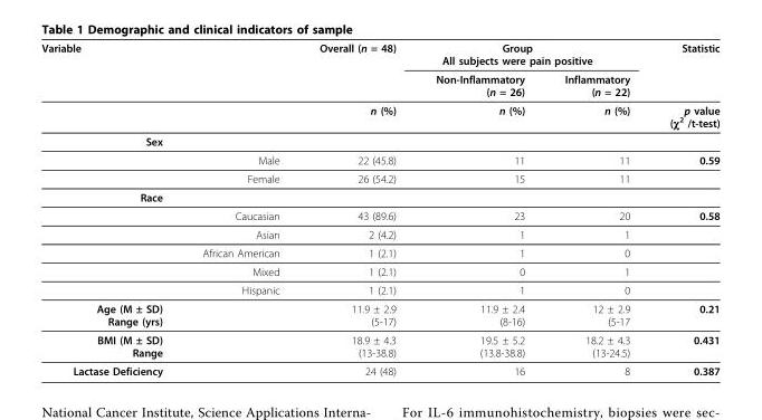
<table><thead><tr><td rowspan="2">Variable</td><td rowspan="2"></td><td rowspan="2">Overall (n = 48)</td><td colspan="2">Group All subjects were pain positive</td><td rowspan="2">Statistic</td></tr><tr><td>Non-Inflammatory (n = 26)</td><td>Inflammatory (n = 22)</td></tr></thead><tbody><tr><td></td><td></td><td>n (%)</td><td>n (%)</td><td>n (%)</td><td>p value (χ<sup>2</sup> /t-test)</td></tr><tr><td colspan="6">Sex</td></tr><tr><td></td><td>Male</td><td>22 (45.8)</td><td>11</td><td>11</td><td>0.59</td></tr><tr><td></td><td>Female</td><td>26 (54.2)</td><td>15</td><td>11</td><td></td></tr><tr><td colspan="6">Race</td></tr><tr><td></td><td>Caucasian</td><td>43 (89.6)</td><td>23</td><td>20</td><td>0.58</td></tr><tr><td></td><td>Asian</td><td>2 (4.2)</td><td>1</td><td>1</td><td></td></tr><tr><td></td><td>African American</td><td>1 (2.1)</td><td>1</td><td>0</td><td></td></tr><tr><td></td><td>Mixed</td><td>1 (2.1)</td><td>0</td><td>1</td><td></td></tr><tr><td></td><td>Hispanic</td><td>1 (2.1)</td><td>1</td><td>0</td><td></td></tr><tr><td>Age (M ± SD) Range (yrs)</td><td></td><td>11.9 ± 2.9 (5-17)</td><td>11.9 ± 2.4 (8-16)</td><td>12 ± 2.9 (5-17</td><td>0.21</td></tr><tr><td>BMI (M ± SD) Range</td><td></td><td>18.9 ± 4.3 (13-38.8)</td><td>19.5 ± 5.2 (13.8-38.8)</td><td>18.2 ± 4.3 (13-24.5)</td><td>0.431</td></tr><tr><td>Lactase Deficiency</td><td></td><td>24 (48)</td><td>16</td><td>8</td><td>0.387</td></tr></tbody></table>